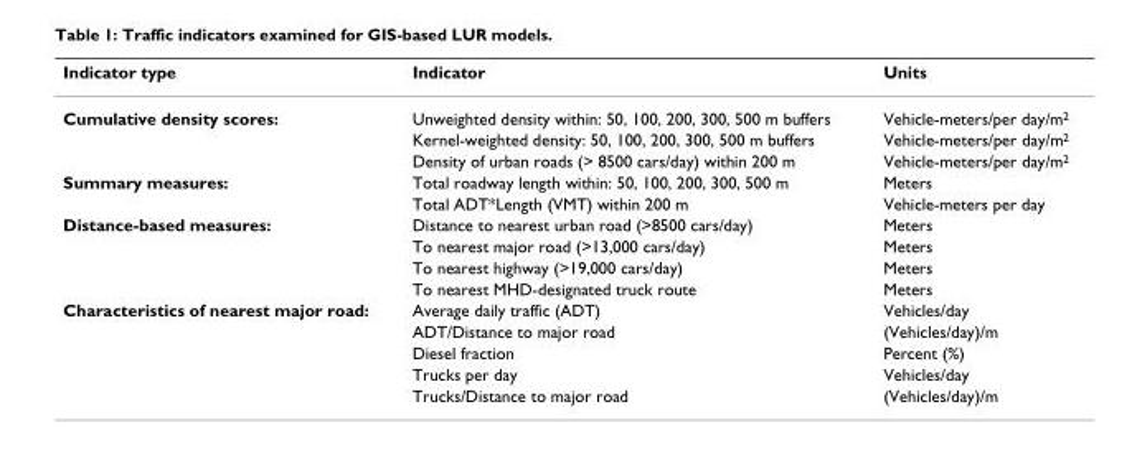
<table><thead><tr><td>Indicator type</td><td>Indicator</td><td>Units</td></tr></thead><tbody><tr><td rowspan="3">Cumulative density scores:</td><td>Unweighted density within: 50, 100, 200, 300, 500 m buffers</td><td>Vehicle-meters/per day/m<sup>2</sup></td></tr><tr><td>Kernel-weighted density: 50, 100, 200, 300, 500 m buffers</td><td>Vehicle-meters/per day/m<sup>2</sup></td></tr><tr><td>Density of urban roads (&gt; 8500 cars/day) within 200 m</td><td>Vehicle-meters/per day/m<sup>2</sup></td></tr><tr><td rowspan="2">Summary measures:</td><td>Total roadway length within: 50, 100, 200, 300, 500 m</td><td>Meters</td></tr><tr><td>Total ADT*Length (VMT) within 200 m</td><td>Vehicle-meters per day</td></tr><tr><td rowspan="4">Distance-based measures:</td><td>Distance to nearest urban road (&gt;8500 cars/day)</td><td>Meters</td></tr><tr><td>To nearest major road (&gt;13,000 cars/day)</td><td>Meters</td></tr><tr><td>To nearest highway (&gt;19,000 cars/day)</td><td>Meters</td></tr><tr><td>To nearest MHD-designated truck route</td><td>Meters</td></tr><tr><td rowspan="5">Characteristics of nearest major road:</td><td>Average daily traffic (ADT)</td><td>Vehicles/day</td></tr><tr><td>ADT/Distance to major road</td><td>(Vehicles/day)/m</td></tr><tr><td>Diesel fraction</td><td>Percent (%)</td></tr><tr><td>Trucks per day</td><td>Vehicles/day</td></tr><tr><td>Trucks/Distance to major road</td><td>(Vehicles/day)/m</td></tr></tbody></table>